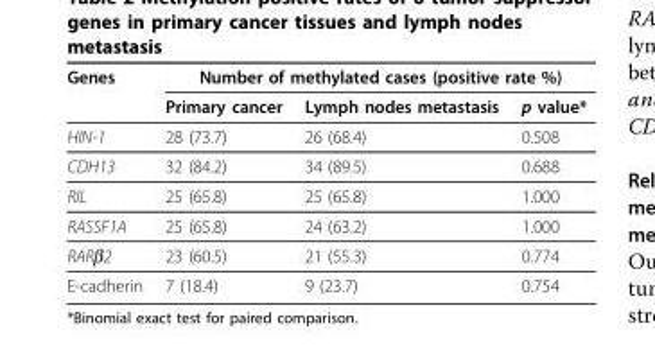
<table><thead><tr><td rowspan="2">Genes</td><td colspan="3">Number of methylated cases (positive rate %)</td></tr><tr><td>Primary cancer</td><td>Lymph nodes metastasis</td><td>p value*</td></tr></thead><tbody><tr><td>HIN-1</td><td>28 (73.7)</td><td>26 (68.4)</td><td>0.508</td></tr><tr><td>CDH13</td><td>32 (84.2)</td><td>34 (89.5)</td><td>0.688</td></tr><tr><td>RIL</td><td>25 (65.8)</td><td>25 (65.8)</td><td>1.000</td></tr><tr><td>RASSF1A</td><td>25 (65.8)</td><td>24 (63.2)</td><td>1.000</td></tr><tr><td>RARβ2</td><td>23 (60.5)</td><td>21 (55.3)</td><td>0.774</td></tr><tr><td>E-cadherin</td><td>7 (18.4)</td><td>9 (23.7)</td><td>0.754</td></tr></tbody></table>